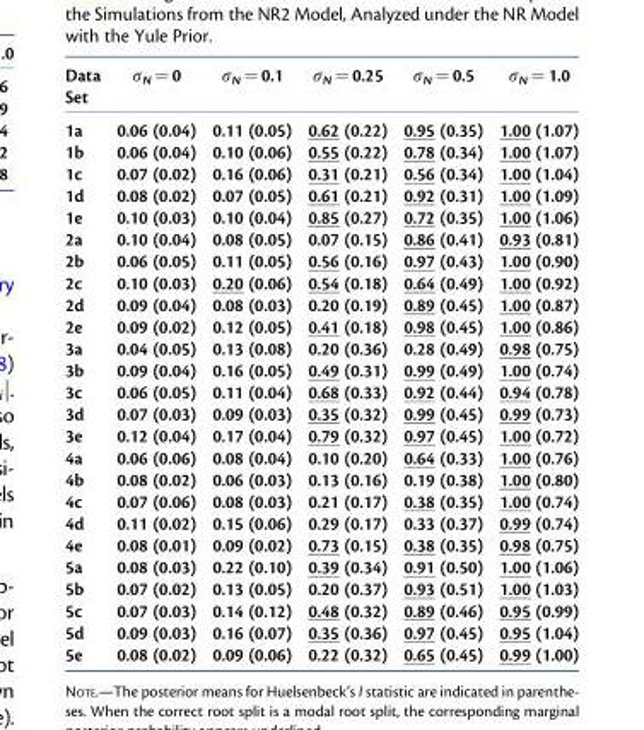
<table><thead><tr><td>Data Set</td><td>σ<sub>N</sub> = 0</td><td>σ<sub>N</sub> = 0.1</td><td>σ<sub>N</sub> = 0.25</td><td>σ<sub>N</sub> = 0.5</td><td>σ<sub>N</sub> = 1.0</td></tr></thead><tbody><tr><td>1a</td><td>0.06 (0.04)</td><td>0.11 (0.05)</td><td>0.62 (0.22)</td><td>0.95 (0.35)</td><td>1.00 (1.07)</td></tr><tr><td>1b</td><td>0.06 (0.04)</td><td>0.10 (0.06)</td><td>0.55 (0.22)</td><td>0.78 (0.34)</td><td>1.00 (1.07)</td></tr><tr><td>1c</td><td>0.07 (0.02)</td><td>0.16 (0.06)</td><td>0.31 (0.21)</td><td>0.56 (0.34)</td><td>1.00 (1.04)</td></tr><tr><td>1d</td><td>0.08 (0.02)</td><td>0.07 (0.05)</td><td>0.61 (0.21)</td><td>0.92 (0.31)</td><td>1.00 (1.09)</td></tr><tr><td>1e</td><td>0.10 (0.03)</td><td>0.10 (0.04)</td><td>0.85 (0.27)</td><td>0.72 (0.35)</td><td>1.00 (1.06)</td></tr><tr><td>2a</td><td>0.10 (0.04)</td><td>0.08 (0.05)</td><td>0.07 (0.15)</td><td>0.86 (0.41)</td><td>0.93 (0.81)</td></tr><tr><td>2b</td><td>0.06 (0.05)</td><td>0.11 (0.05)</td><td>0.56 (0.16)</td><td>0.97 (0.43)</td><td>1.00 (0.90)</td></tr><tr><td>2c</td><td>0.10 (0.03)</td><td>0.20 (0.06)</td><td>0.54 (0.18)</td><td>0.64 (0.49)</td><td>1.00 (0.92)</td></tr><tr><td>2d</td><td>0.09 (0.04)</td><td>0.08 (0.03)</td><td>0.20 (0.19)</td><td>0.89 (0.45)</td><td>1.00 (0.87)</td></tr><tr><td>2e</td><td>0.09 (0.02)</td><td>0.12 (0.05)</td><td>0.41 (0.18)</td><td>0.98 (0.45)</td><td>1.00 (0.86)</td></tr><tr><td>3a</td><td>0.04 (0.05)</td><td>0.13 (0.08)</td><td>0.20 (0.36)</td><td>0.28 (0.49)</td><td>0.98 (0.75)</td></tr><tr><td>3b</td><td>0.09 (0.04)</td><td>0.16 (0.05)</td><td>0.49 (0.31)</td><td>0.99 (0.49)</td><td>1.00 (0.74)</td></tr><tr><td>3c</td><td>0.06 (0.05)</td><td>0.11 (0.04)</td><td>0.68 (0.33)</td><td>0.92 (0.44)</td><td>0.94 (0.78)</td></tr><tr><td>3d</td><td>0.07 (0.03)</td><td>0.09 (0.03)</td><td>0.35 (0.32)</td><td>0.99 (0.45)</td><td>0.99 (0.73)</td></tr><tr><td>3e</td><td>0.12 (0.04)</td><td>0.17 (0.04)</td><td>0.79 (0.32)</td><td>0.97 (0.45)</td><td>1.00 (0.72)</td></tr><tr><td>4a</td><td>0.06 (0.06)</td><td>0.08 (0.04)</td><td>0.10 (0.20)</td><td>0.64 (0.33)</td><td>1.00 (0.76)</td></tr><tr><td>4b</td><td>0.08 (0.02)</td><td>0.06 (0.03)</td><td>0.13 (0.16)</td><td>0.19 (0.38)</td><td>1.00 (0.80)</td></tr><tr><td>4c</td><td>0.07 (0.06)</td><td>0.08 (0.03)</td><td>0.21 (0.17)</td><td>0.38 (0.35)</td><td>1.00 (0.74)</td></tr><tr><td>4d</td><td>0.11 (0.02)</td><td>0.15 (0.06)</td><td>0.29 (0.17)</td><td>0.33 (0.37)</td><td>0.99 (0.74)</td></tr><tr><td>4e</td><td>0.08 (0.01)</td><td>0.09 (0.02)</td><td>0.73 (0.15)</td><td>0.38 (0.35)</td><td>0.98 (0.75)</td></tr><tr><td>5a</td><td>0.08 (0.03)</td><td>0.22 (0.10)</td><td>0.39 (0.34)</td><td>0.91 (0.50)</td><td>1.00 (1.06)</td></tr><tr><td>5b</td><td>0.07 (0.02)</td><td>0.13 (0.05)</td><td>0.20 (0.37)</td><td>0.93 (0.51)</td><td>1.00 (1.03)</td></tr><tr><td>5c</td><td>0.07 (0.03)</td><td>0.14 (0.12)</td><td>0.48 (0.32)</td><td>0.89 (0.46)</td><td>0.95 (0.99)</td></tr><tr><td>5d</td><td>0.09 (0.03)</td><td>0.16 (0.07)</td><td>0.35 (0.36)</td><td>0.97 (0.45)</td><td>0.95 (1.04)</td></tr><tr><td>5e</td><td>0.08 (0.02)</td><td>0.09 (0.06)</td><td>0.22 (0.32)</td><td>0.65 (0.45)</td><td>0.99 (1.00)</td></tr></tbody></table>